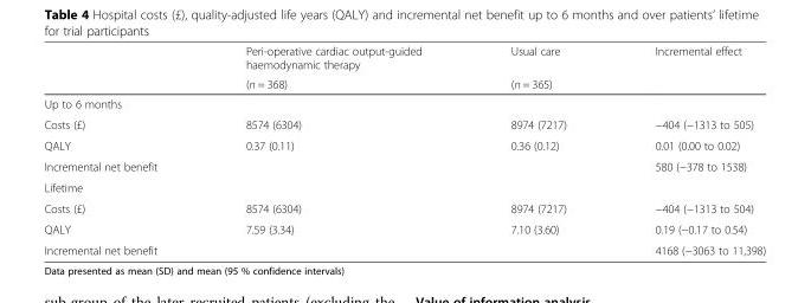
<table><thead><tr><td rowspan="2"></td><td rowspan="2">Peri-operative cardiac output-guided haemodynamic therapy (n = 368)</td><td rowspan="2">Usual care (n = 365)</td><td rowspan="2">Incremental effect</td></tr><tr></tr></thead><tbody><tr><td colspan="4">Up to 6 months</td></tr><tr><td>Costs (£)</td><td>8574 (6304)</td><td>8974 (7217)</td><td>−404 (−1313 to 505)</td></tr><tr><td>QALY</td><td>0.37 (0.11)</td><td>0.36 (0.12)</td><td>0.01 (0.00 to 0.02)</td></tr><tr><td>Incremental net benefit</td><td></td><td></td><td>580 (−378 to 1538)</td></tr><tr><td colspan="4">Lifetime</td></tr><tr><td>Costs (£)</td><td>8574 (6304)</td><td>8974 (7217)</td><td>−404 (−1313 to 504)</td></tr><tr><td>QALY</td><td>7.59 (3.34)</td><td>7.10 (3.60)</td><td>0.19 (−0.17 to 0.54)</td></tr><tr><td>Incremental net benefit</td><td></td><td></td><td>4168 (−3063 to 11,398)</td></tr></tbody></table>